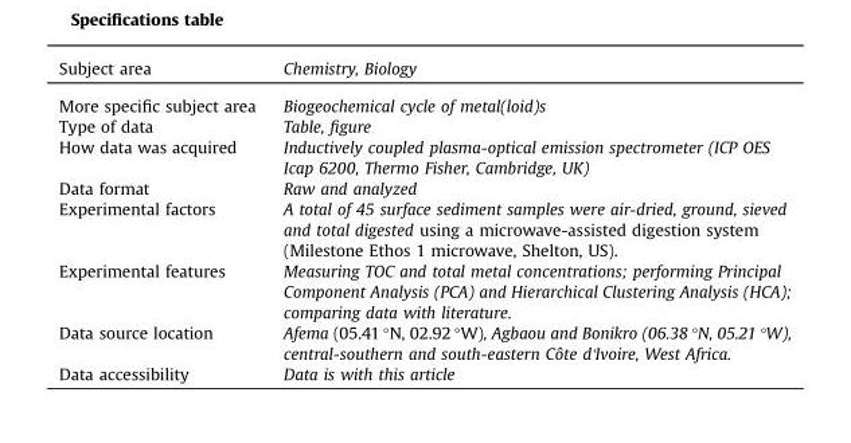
<table><thead><tr><td>Subject area</td><td>Chemistry, Biology</td></tr></thead><tbody><tr><td>More specific subject area</td><td>Biogeochemical cycle of metal(loid)s</td></tr><tr><td>Type of data</td><td>Table, figure</td></tr><tr><td>How data was acquired</td><td>Inductively coupled plasma-optical emission spectrometer (ICP OES Icap 6200, Thermo Fisher, Cambridge, UK)</td></tr><tr><td>Data format</td><td>Raw and analyzed</td></tr><tr><td>Experimental factors</td><td>A total of 45 surface sediment samples were air-dried, ground, sieved and total digested using a microwave-assisted digestion system (Milestone Ethos 1 microwave, Shelton, US).</td></tr><tr><td>Experimental features</td><td>Measuring TOC and total metal concentrations; performing Principal Component Analysis (PCA) and Hierarchical Clustering Analysis (HCA); comparing data with literature.</td></tr><tr><td>Data source location</td><td>Afema (05.41 °N, 02.92 °W), Agbaou and Bonikro (06.38 °N, 05.21 °W), central-southern and south-eastern Côte d&#x27;Ivoire, West Africa.</td></tr><tr><td>Data accessibility</td><td>Data is with this article</td></tr></tbody></table>